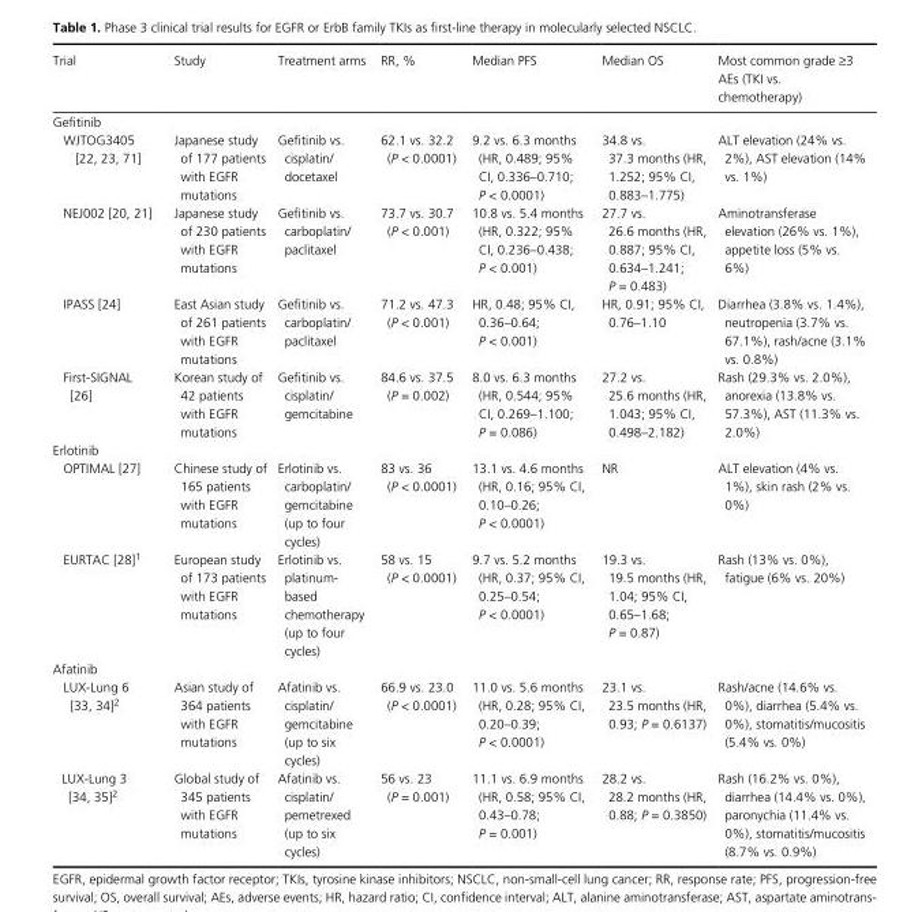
<table><thead><tr><td>Trial</td><td>Study</td><td>Treatment arms</td><td>RR, %</td><td>Median PFS</td><td>Median OS</td><td>Most common grade ≥3 AEs (TKI vs. chemotherapy)</td></tr></thead><tbody><tr><td colspan="7">Gefitinib</td></tr><tr><td>WJTOG3405 [22, 23, 71]</td><td>Japanese study of 177 patients with EGFR mutations</td><td>Gefitinib vs. cisplatin/ docetaxel</td><td>62.1 vs. 32.2 (P &lt; 0.0001)</td><td>9.2 vs. 6.3 months (HR, 0.489; 95% CI, 0.336–0.710; P &lt; 0.0001)</td><td>34.8 vs. 37.3 months (HR, 1.252; 95% CI, 0.883–1.775)</td><td>ALT elevation (24% vs. 2%), AST elevation (14% vs. 1%)</td></tr><tr><td>NEJ002 [20, 21]</td><td>Japanese study of 230 patients with EGFR mutations</td><td>Gefitinib vs. carboplatin/ paclitaxel</td><td>73.7 vs. 30.7 (P &lt; 0.001)</td><td>10.8 vs. 5.4 months (HR, 0.322; 95% CI, 0.236–0.438; P &lt; 0.001)</td><td>27.7 vs. 26.6 months (HR, 0.887; 95% CI, 0.634–1.241; P = 0.483)</td><td>Aminotransferase elevation (26% vs. 1%), appetite loss (5% vs. 6%)</td></tr><tr><td>IPASS [24]</td><td>East Asian study of 261 patients with EGFR mutations</td><td>Gefitinib vs. carboplatin/ paclitaxel</td><td>71.2 vs. 47.3 (P &lt; 0.001)</td><td>HR, 0.48; 95% CI, 0.36–0.64; P &lt; 0.001)</td><td>HR, 0.91; 95% CI, 0.76–1.10</td><td>Diarrhea (3.8% vs. 1.4%), neutropenia (3.7% vs. 67.1%), rash/acne (3.1% vs. 0.8%)</td></tr><tr><td>First- SIGNAL [26]</td><td>Korean study of 42 patients with EGFR mutations</td><td>Gefitinib vs. cisplatin/ gemcitabine</td><td>84.6 vs. 37.5 (P = 0.002)</td><td>8.0 vs. 6.3 months (HR, 0.544; 95% CI, 0.269–1.100; P = 0.086)</td><td>27.2 vs. 25.6 months (HR, 1.043; 95% CI, 0.498–2.182)</td><td>Rash (29.3% vs. 2.0%), anorexia (13.8% vs. 57.3%), AST (11.3% vs. 2.0%)</td></tr><tr><td colspan="7">Erlotinib</td></tr><tr><td>OPTIMAL [27]</td><td>Chinese study of 165 patients with EGFR mutations</td><td>Erlotinib vs. carboplatin/ gemcitabine (up to four cycles)</td><td>83 vs. 36 (P &lt; 0.0001)</td><td>13.1 vs. 4.6 months (HR, 0.16; 95% CI, 0.10–0.26; P &lt; 0.0001)</td><td>NR</td><td>ALT elevation (4% vs. 1%), skin rash (2% vs. 0%)</td></tr><tr><td>EURTAC [28]1</td><td>European study of 173 patients with EGFR mutations</td><td>Erlotinib vs. platinum- based chemotherapy (up to four cycles)</td><td>58 vs. 15 (P &lt; 0.0001)</td><td>9.7 vs. 5.2 months (HR, 0.37; 95% CI, 0.25–0.54; P &lt; 0.0001)</td><td>19.3 vs. 19.5 months (HR, 1.04; 95% CI, 0.65–1.68; P = 0.87)</td><td>Rash (13% vs. 0%), fatigue (6% vs. 20%)</td></tr><tr><td colspan="7">Afatinib</td></tr><tr><td>LUX- Lung 6 [33, 34]2</td><td>Asian study of 364 patients with EGFR mutations</td><td>Afatinib vs. cisplatin/ gemcitabine (up to six cycles)</td><td>66.9 vs. 23.0 (P &lt; 0.0001)</td><td>11.0 vs. 5.6 months (HR, 0.28; 95% CI, 0.20–0.39; P &lt; 0.0001)</td><td>23.1 vs. 23.5 months (HR, 0.93; P = 0.6137)</td><td>Rash/acne (14.6% vs. 0%), diarrhea (5.4% vs. 0%), stomatitis/mucositis (5.4% vs. 0%)</td></tr><tr><td>LUX- Lung 3 [34, 35]2</td><td>Global study of 345 patients with EGFR mutations</td><td>Afatinib vs. cisplatin/ pemetrexed (up to six cycles)</td><td>56 vs. 23 (P = 0.001)</td><td>11.1 vs. 6.9 months (HR, 0.58; 95% CI, 0.43–0.78; P = 0.001)</td><td>28.2 vs. 28.2 months (HR, 0.88; P = 0.3850)</td><td>Rash (16.2% vs. 0%), diarrhea (14.4% vs. 0%), paronychia (11.4% vs. 0%), stomatitis/mucositis (8.7% vs. 0.9%)</td></tr></tbody></table>